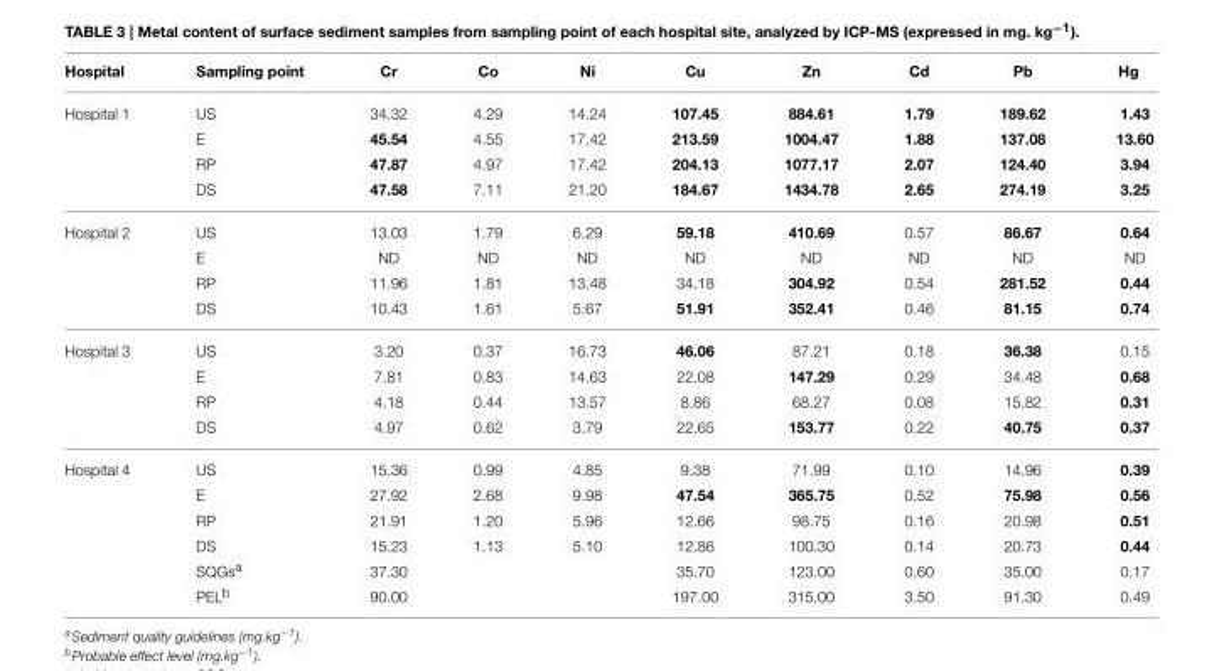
<table><thead><tr><td>Hospital</td><td>Sampling point</td><td>Cr</td><td>Co</td><td>Ni</td><td>Cu</td><td>Zn</td><td>Cd</td><td>Pb</td><td>Hg</td></tr></thead><tbody><tr><td rowspan="4">Hospital 1</td><td>US</td><td>34.32</td><td>4.29</td><td>14.24</td><td>107.45</td><td>884.61</td><td>1.79</td><td>189.62</td><td>1.43</td></tr><tr><td>E</td><td>45.54</td><td>4.55</td><td>17.42</td><td>213.59</td><td>1004.47</td><td>1.88</td><td>137.08</td><td>13.60</td></tr><tr><td>RP</td><td>47.87</td><td>4.97</td><td>17.42</td><td>204.13</td><td>1077.17</td><td>2.07</td><td>124.40</td><td>3.94</td></tr><tr><td>DS</td><td>47.58</td><td>7.11</td><td>21.20</td><td>184.67</td><td>1434.78</td><td>2.65</td><td>274.19</td><td>3.25</td></tr><tr><td rowspan="4">Hospital 2</td><td>US</td><td>13.03</td><td>1.79</td><td>6.29</td><td>59.18</td><td>410.69</td><td>0.57</td><td>86.67</td><td>0.64</td></tr><tr><td>E</td><td>ND</td><td>ND</td><td>ND</td><td>ND</td><td>ND</td><td>ND</td><td>ND</td><td>ND</td></tr><tr><td>RP</td><td>11.96</td><td>1.81</td><td>13.48</td><td>34.18</td><td>304.92</td><td>0.54</td><td>281.52</td><td>0.44</td></tr><tr><td>DS</td><td>10.43</td><td>1.61</td><td>5.67</td><td>51.91</td><td>352.41</td><td>0.46</td><td>81.15</td><td>0.74</td></tr><tr><td rowspan="4">Hospital 3</td><td>US</td><td>3.20</td><td>0.37</td><td>16.73</td><td>46.06</td><td>87.21</td><td>0.18</td><td>36.38</td><td>0.15</td></tr><tr><td>E</td><td>7.81</td><td>0.83</td><td>14.63</td><td>22.08</td><td>147.29</td><td>0.29</td><td>34.48</td><td>0.68</td></tr><tr><td>RP</td><td>4.18</td><td>0.44</td><td>13.57</td><td>8.86</td><td>68.27</td><td>0.08</td><td>15.82</td><td>0.31</td></tr><tr><td>DS</td><td>4.97</td><td>0.62</td><td>3.79</td><td>22.65</td><td>153.77</td><td>0.22</td><td>40.75</td><td>0.37</td></tr><tr><td rowspan="6">Hospital 4</td><td>US</td><td>15.36</td><td>0.99</td><td>4.85</td><td>9.38</td><td>71.99</td><td>0.10</td><td>14.96</td><td>0.39</td></tr><tr><td>E</td><td>27.92</td><td>2.68</td><td>9.98</td><td>47.54</td><td>365.75</td><td>0.52</td><td>75.98</td><td>0.56</td></tr><tr><td>RP</td><td>21.91</td><td>1.20</td><td>5.96</td><td>12.66</td><td>98.75</td><td>0.16</td><td>20.98</td><td>0.51</td></tr><tr><td>DS</td><td>15.23</td><td>1.13</td><td>5.10</td><td>12.86</td><td>100.30</td><td>0.14</td><td>20.73</td><td>0.44</td></tr><tr><td>SQGs<sup>a</sup></td><td>37.30</td><td></td><td></td><td>35.70</td><td>123.00</td><td>0.60</td><td>35.00</td><td>0.17</td></tr><tr><td>PEL<sup>b</sup></td><td>90.00</td><td></td><td></td><td>197.00</td><td>315.00</td><td>3.50</td><td>91.30</td><td>0.49</td></tr></tbody></table>